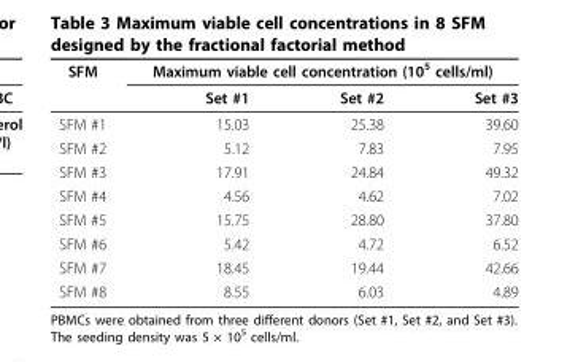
<table><thead><tr><td rowspan="2">SFM</td><td colspan="3">Maximum viable cell concentration (10<sup>5</sup> cells/ml)</td></tr><tr><td>Set #1</td><td>Set #2</td><td>Set #3</td></tr></thead><tbody><tr><td>SFM #1</td><td>15.03</td><td>25.38</td><td>39.60</td></tr><tr><td>SFM #2</td><td>5.12</td><td>7.83</td><td>7.95</td></tr><tr><td>SFM #3</td><td>17.91</td><td>24.84</td><td>49.32</td></tr><tr><td>SFM #4</td><td>4.56</td><td>4.62</td><td>7.02</td></tr><tr><td>SFM #5</td><td>15.75</td><td>28.80</td><td>37.80</td></tr><tr><td>SFM #6</td><td>5.42</td><td>4.72</td><td>6.52</td></tr><tr><td>SFM #7</td><td>18.45</td><td>19.44</td><td>42.66</td></tr><tr><td>SFM #8</td><td>8.55</td><td>6.03</td><td>4.89</td></tr></tbody></table>